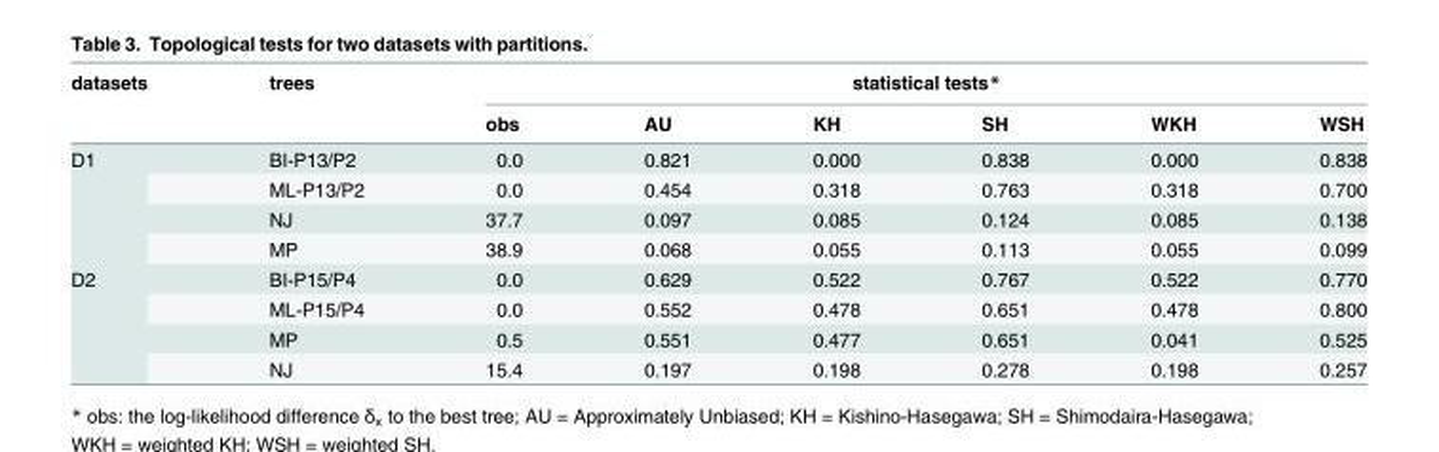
<table><thead><tr><td rowspan="2">datasets</td><td rowspan="2">trees</td><td colspan="6">statistical tests*</td></tr><tr><td>obs</td><td>AU</td><td>KH</td><td>SH</td><td>WKH</td><td>WSH</td></tr></thead><tbody><tr><td rowspan="4">D1</td><td>BI-P13/P2</td><td>0.0</td><td>0.821</td><td>0.000</td><td>0.838</td><td>0.000</td><td>0.838</td></tr><tr><td>ML-P13/P2</td><td>0.0</td><td>0.454</td><td>0.318</td><td>0.763</td><td>0.318</td><td>0.700</td></tr><tr><td>NJ</td><td>37.7</td><td>0.097</td><td>0.085</td><td>0.124</td><td>0.085</td><td>0.138</td></tr><tr><td>MP</td><td>38.9</td><td>0.068</td><td>0.055</td><td>0.113</td><td>0.055</td><td>0.099</td></tr><tr><td rowspan="4">D2</td><td>BI-P15/P4</td><td>0.0</td><td>0.629</td><td>0.522</td><td>0.767</td><td>0.522</td><td>0.770</td></tr><tr><td>ML-P15/P4</td><td>0.0</td><td>0.552</td><td>0.478</td><td>0.651</td><td>0.478</td><td>0.800</td></tr><tr><td>MP</td><td>0.5</td><td>0.551</td><td>0.477</td><td>0.651</td><td>0.041</td><td>0.525</td></tr><tr><td>NJ</td><td>15.4</td><td>0.197</td><td>0.198</td><td>0.278</td><td>0.198</td><td>0.257</td></tr></tbody></table>